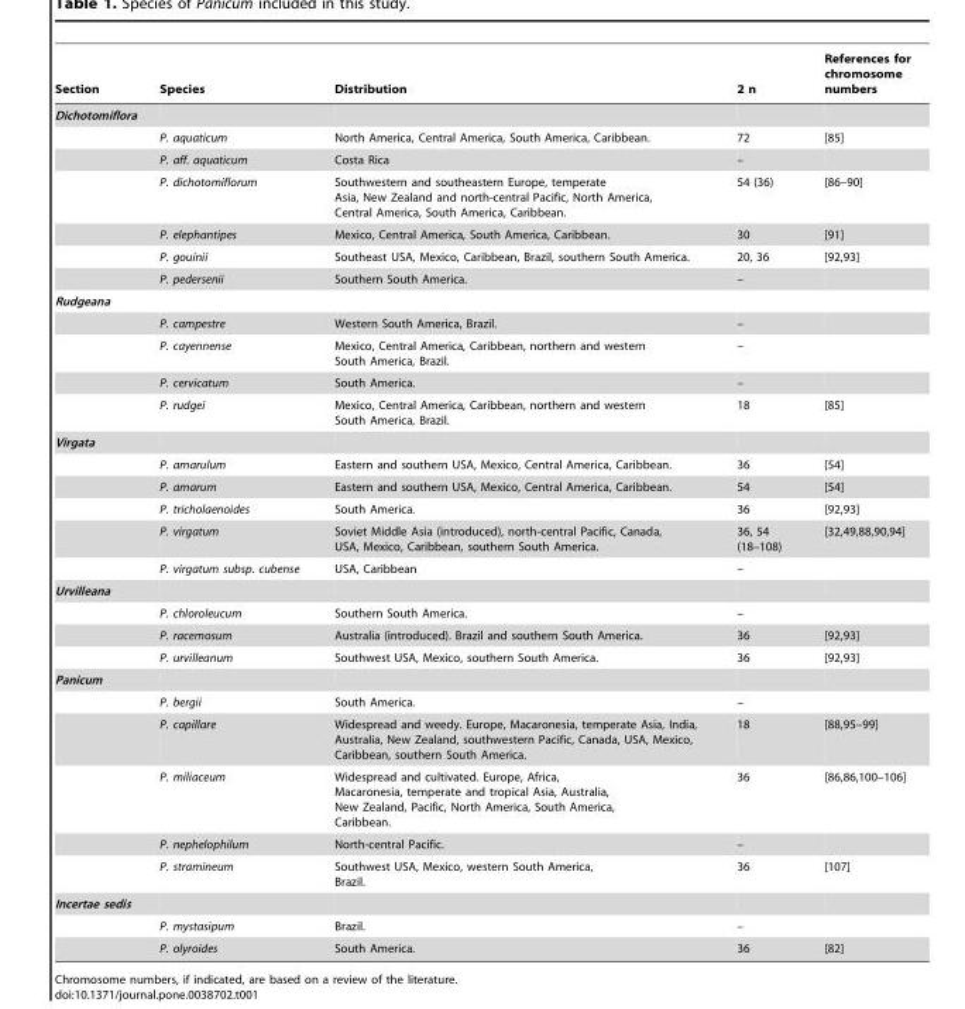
<table><thead><tr><td>Section</td><td>Species</td><td>Distribution</td><td>2 n</td><td>References for chromosome numbers</td></tr></thead><tbody><tr><td colspan="5">Dichotomiflora</td></tr><tr><td></td><td>P. aquaticum</td><td>North America, Central America, South America, Caribbean.</td><td>72</td><td>[85]</td></tr><tr><td></td><td>P. aff. aquaticum</td><td>Costa Rica</td><td>–</td><td></td></tr><tr><td></td><td>P. dichotomiflorum</td><td>Southwestern and southeastern Europe, temperate Asia, New Zealand and north-central Pacific, North America, Central America, South America, Caribbean.</td><td>54 (36)</td><td>[86–90]</td></tr><tr><td></td><td>P. elephantipes</td><td>Mexico, Central America, South America, Caribbean.</td><td>30</td><td>[91]</td></tr><tr><td></td><td>P. gouinii</td><td>Southeast USA, Mexico, Caribbean, Brazil, southern South America.</td><td>20, 36</td><td>[92,93]</td></tr><tr><td></td><td>P. pedersenii</td><td>Southern South America.</td><td>–</td><td></td></tr><tr><td colspan="5">Rudgeana</td></tr><tr><td></td><td>P. campestre</td><td>Western South America, Brazil.</td><td>–</td><td></td></tr><tr><td></td><td>P. cayennense</td><td>Mexico, Central America, Caribbean, northern and western South America, Brazil.</td><td>–</td><td></td></tr><tr><td></td><td>P. cervicatum</td><td>South America.</td><td>–</td><td></td></tr><tr><td></td><td>P. rudgei</td><td>Mexico, Central America, Caribbean, northern and western South America, Brazil.</td><td>18</td><td>[85]</td></tr><tr><td colspan="5">Virgata</td></tr><tr><td></td><td>P. amarulum</td><td>Eastern and southern USA, Mexico, Central America, Caribbean.</td><td>36</td><td>[54]</td></tr><tr><td></td><td>P. amarum</td><td>Eastern and southern USA, Mexico, Central America, Caribbean.</td><td>54</td><td>[54]</td></tr><tr><td></td><td>P. tricholaenoides</td><td>South America.</td><td>36</td><td>[92,93]</td></tr><tr><td></td><td>P. virgatum</td><td>Soviet Middle Asia (introduced), north-central Pacific, Canada, USA, Mexico, Caribbean, southern South America.</td><td>36, 54 (18–108)</td><td>[32,49,88,90,94]</td></tr><tr><td></td><td>P. virgatum subsp. cubense</td><td>USA, Caribbean</td><td>–</td><td></td></tr><tr><td colspan="5">Urvilleana</td></tr><tr><td></td><td>P. chloroleucum</td><td>Southern South America.</td><td>–</td><td></td></tr><tr><td></td><td>P. racemosum</td><td>Australia (introduced). Brazil and southern South America.</td><td>36</td><td>[92,93]</td></tr><tr><td></td><td>P. urvilleanum</td><td>Southwest USA, Mexico, southern South America.</td><td>36</td><td>[92,93]</td></tr><tr><td colspan="5">Panicum</td></tr><tr><td></td><td>P. bergii</td><td>South America.</td><td>–</td><td></td></tr><tr><td></td><td>P. capillare</td><td>Widespread and weedy. Europe, Macaronesia, temperate Asia, India, Australia, New Zealand, southwestern Pacific, Canada, USA, Mexico, Caribbean, southern South America.</td><td>18</td><td>[88,95–99]</td></tr><tr><td></td><td>P. miliaceum</td><td>Widespread and cultivated. Europe, Africa, Macaronesia, temperate and tropical Asia, Australia, New Zealand, Pacific, North America, South America, Caribbean.</td><td>36</td><td>[86,86,100–106]</td></tr><tr><td></td><td>P. nephelophilum</td><td>North-central Pacific.</td><td>–</td><td></td></tr><tr><td></td><td>P. stramineum</td><td>Southwest USA, Mexico, western South America, Brazil.</td><td>36</td><td>[107]</td></tr><tr><td colspan="5">Incertae sedis</td></tr><tr><td></td><td>P. mystasipum</td><td>Brazil.</td><td>–</td><td></td></tr><tr><td></td><td>P. olyroides</td><td>South America.</td><td>36</td><td>[82]</td></tr></tbody></table>